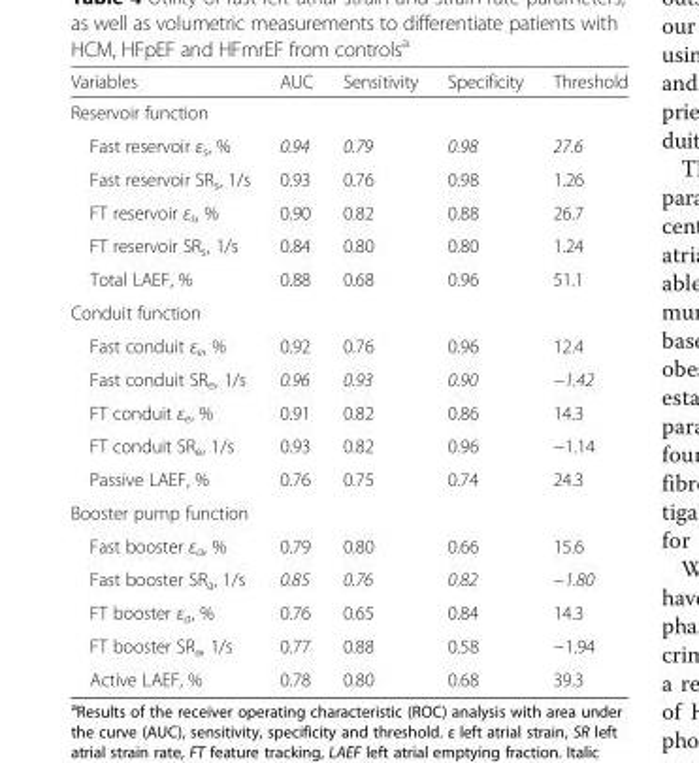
<table><thead><tr><td>Variables</td><td>AUC</td><td>Sensitivity</td><td>Specificity</td><td>Threshold</td></tr></thead><tbody><tr><td colspan="5">Reservoir function</td></tr><tr><td>Fast reservoir ε<sub>s</sub>, %</td><td>0.94</td><td>0.79</td><td>0.98</td><td>27.6</td></tr><tr><td>Fast reservoir SR<sub>s</sub>, 1/s</td><td>0.93</td><td>0.76</td><td>0.98</td><td>1.26</td></tr><tr><td>FT reservoir ε<sub>s</sub>, %</td><td>0.90</td><td>0.82</td><td>0.88</td><td>26.7</td></tr><tr><td>FT reservoir SR<sub>s</sub>, 1/s</td><td>0.84</td><td>0.80</td><td>0.80</td><td>1.24</td></tr><tr><td>Total LAEF, %</td><td>0.88</td><td>0.68</td><td>0.96</td><td>51.1</td></tr><tr><td colspan="5">Conduit function</td></tr><tr><td>Fast conduit ε<sub>e</sub>, %</td><td>0.92</td><td>0.76</td><td>0.96</td><td>12.4</td></tr><tr><td>Fast conduit SR<sub>e</sub>, 1/s</td><td>0.96</td><td>0.93</td><td>0.90</td><td>−1.42</td></tr><tr><td>FT conduit ε<sub>e</sub>, %</td><td>0.91</td><td>0.82</td><td>0.86</td><td>14.3</td></tr><tr><td>FT conduit SR<sub>e</sub>, 1/s</td><td>0.93</td><td>0.82</td><td>0.96</td><td>−1.14</td></tr><tr><td>Passive LAEF, %</td><td>0.76</td><td>0.75</td><td>0.74</td><td>24.3</td></tr><tr><td colspan="5">Booster pump function</td></tr><tr><td>Fast booster ε<sub>a</sub>, %</td><td>0.79</td><td>0.80</td><td>0.66</td><td>15.6</td></tr><tr><td>Fast booster SR<sub>a</sub>, 1/s</td><td>0.85</td><td>0.76</td><td>0.82</td><td>−1.80</td></tr><tr><td>FT booster ε<sub>a</sub>, %</td><td>0.76</td><td>0.65</td><td>0.84</td><td>14.3</td></tr><tr><td>FT booster SR<sub>a</sub>, 1/s</td><td>0.77</td><td>0.88</td><td>0.58</td><td>−1.94</td></tr><tr><td>Active LAEF, %</td><td>0.78</td><td>0.80</td><td>0.68</td><td>39.3</td></tr></tbody></table>